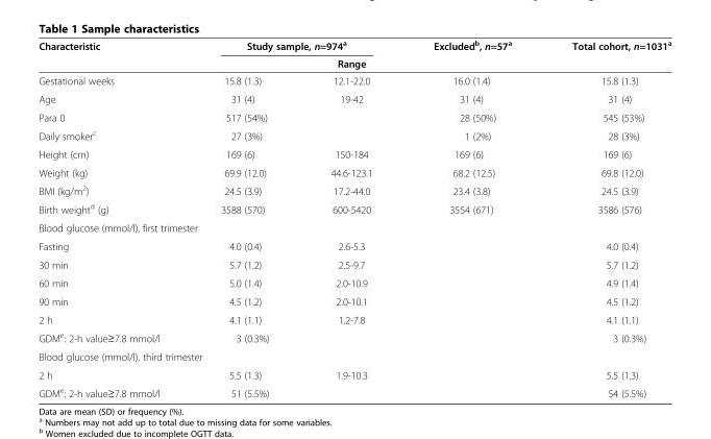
<table><thead><tr><td rowspan="2">Characteristic</td><td colspan="2">Study sample, n=974<sup>a</sup></td><td rowspan="2">Excluded<sup>b</sup>, n=57<sup>a</sup></td><td rowspan="2">Total cohort, n=1031<sup>a</sup></td></tr><tr><td></td><td>Range</td></tr></thead><tbody><tr><td>Gestational weeks</td><td>15.8 (1.3)</td><td>12.1-22.0</td><td>16.0 (1.4)</td><td>15.8 (1.3)</td></tr><tr><td>Age</td><td>31 (4)</td><td>19-42</td><td>31 (4)</td><td>31 (4)</td></tr><tr><td>Para 0</td><td>517 (54%)</td><td></td><td>28 (50%)</td><td>545 (53%)</td></tr><tr><td>Daily smoker<sup>c</sup></td><td>27 (3%)</td><td></td><td>1 (2%)</td><td>28 (3%)</td></tr><tr><td>Height (cm)</td><td>169 (6)</td><td>150-184</td><td>169 (6)</td><td>169 (6)</td></tr><tr><td>Weight (kg)</td><td>69.9 (12.0)</td><td>44.6-123.1</td><td>68.2 (12.5)</td><td>69.8 (12.0)</td></tr><tr><td>BMI (kg/m<sup>2</sup>)</td><td>24.5 (3.9)</td><td>17.2-44.0</td><td>23.4 (3.8)</td><td>24.5 (3.9)</td></tr><tr><td>Birth weight<sup>d</sup> (g)</td><td>3588 (570)</td><td>600-5420</td><td>3554 (671)</td><td>3586 (576)</td></tr><tr><td colspan="5">Blood glucose (mmol/l), first trimester</td></tr><tr><td>Fasting</td><td>4.0 (0.4)</td><td>2.6-5.3</td><td></td><td>4.0 (0.4)</td></tr><tr><td>30 min</td><td>5.7 (1.2)</td><td>2.5-9.7</td><td></td><td>5.7 (1.2)</td></tr><tr><td>60 min</td><td>5.0 (1.4)</td><td>2.0-10.9</td><td></td><td>4.9 (1.4)</td></tr><tr><td>90 min</td><td>4.5 (1.2)</td><td>2.0-10.1</td><td></td><td>4.5 (1.2)</td></tr><tr><td>2 h</td><td>4.1 (1.1)</td><td>1.2-7.8</td><td></td><td>4.1 (1.1)</td></tr><tr><td>GDM<sup>e</sup>: 2-h value≥7.8 mmol/l</td><td>3 (0.3%)</td><td></td><td></td><td>3 (0.3%)</td></tr><tr><td colspan="5">Blood glucose (mmol/l), third trimester</td></tr><tr><td>2 h</td><td>5.5 (1.3)</td><td>1.9-10.3</td><td></td><td>5.5 (1.3)</td></tr><tr><td>GDM<sup>e</sup>: 2-h value≥7.8 mmol/l</td><td>51 (5.5%)</td><td></td><td></td><td>54 (5.5%)</td></tr></tbody></table>